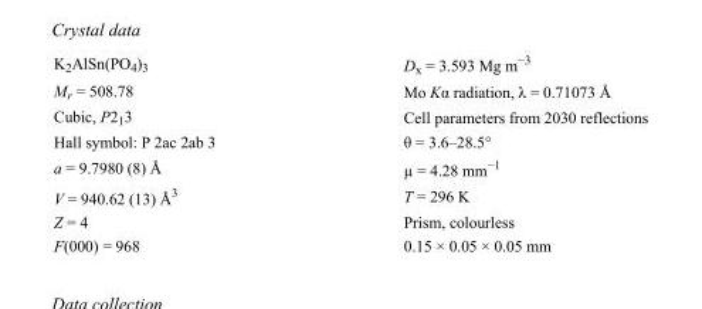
<table><tbody><tr><td>K<sub>2</sub>AlSn(PO<sub>4</sub>)<sub>3</sub></td><td>D<sub>x</sub> = 3.593 Mg m<sup>−3</sup></td></tr><tr><td>M<sub>r</sub> = 508.78</td><td>Mo Kα radiation, λ = 0.71073 Å</td></tr><tr><td>Cubic, P2<sub>1</sub>3</td><td>Cell parameters from 2030 reflections</td></tr><tr><td>Hall symbol: P 2ac 2ab 3</td><td>θ = 3.6–28.5°</td></tr><tr><td>a = 9.7980 (8) Å</td><td>µ = 4.28 mm<sup>−1</sup></td></tr><tr><td>V = 940.62 (13) Å<sup>3</sup></td><td>T = 296 K</td></tr><tr><td>Z = 4</td><td>Prism, colourless</td></tr><tr><td>F(000) = 968</td><td>0.15 × 0.05 × 0.05 mm</td></tr></tbody></table>